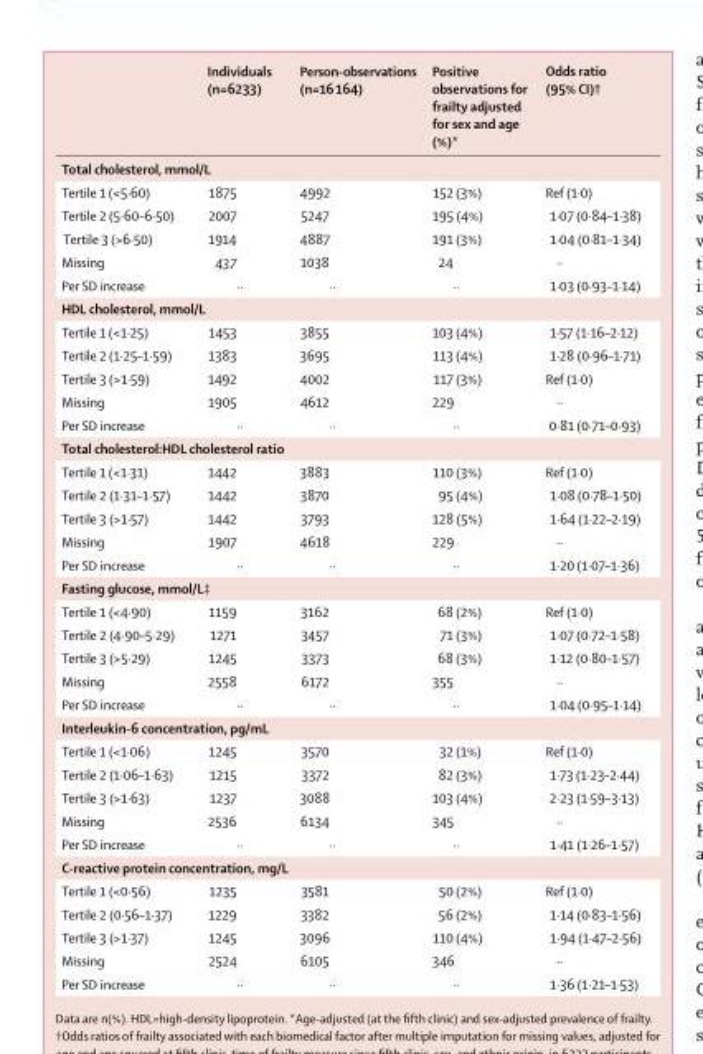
<table><thead><tr><td></td><td>Individuals (n=6233)</td><td>Person-observations (n=16 164)</td><td>Positive observations for frailty adjusted for sex and age (%)*</td><td>Odds ratio (95% CI)†</td></tr></thead><tbody><tr><td colspan="5">Total cholesterol, mmol/L</td></tr><tr><td>Tertile 1 (&lt;5·60)</td><td>1875</td><td>4992</td><td>152 (3%)</td><td>Ref (1·0)</td></tr><tr><td>Tertile 2 (5·60–6·50)</td><td>2007</td><td>5247</td><td>195 (4%)</td><td>1·07 (0·84–1·38)</td></tr><tr><td>Tertile 3 (&gt;6·50)</td><td>1914</td><td>4887</td><td>191 (3%)</td><td>1·04 (0·81–1·34)</td></tr><tr><td>Missing</td><td>437</td><td>1038</td><td>24</td><td>··</td></tr><tr><td>Per SD increase</td><td>··</td><td>··</td><td>··</td><td>1·03 (0·93–1·14)</td></tr><tr><td colspan="5">HDL cholesterol, mmol/L</td></tr><tr><td>Tertile 1 (&lt;1·25)</td><td>1453</td><td>3855</td><td>103 (4%)</td><td>1·57 (1·16–2·12)</td></tr><tr><td>Tertile 2 (1·25–1·59)</td><td>1383</td><td>3695</td><td>113 (4%)</td><td>1·28 (0·96–1·71)</td></tr><tr><td>Tertile 3 (&gt;1·59)</td><td>1492</td><td>4002</td><td>117 (3%)</td><td>Ref (1·0)</td></tr><tr><td>Missing</td><td>1905</td><td>4612</td><td>229</td><td>··</td></tr><tr><td>Per SD increase</td><td>··</td><td>··</td><td>··</td><td>0·81 (0·71–0·93)</td></tr><tr><td colspan="5">Total cholesterol:HDL cholesterol ratio</td></tr><tr><td>Tertile 1 (&lt;1·31)</td><td>1442</td><td>3883</td><td>110 (3%)</td><td>Ref (1·0)</td></tr><tr><td>Tertile 2 (1·31–1·57)</td><td>1442</td><td>3870</td><td>95 (4%)</td><td>1·08 (0·78–1·50)</td></tr><tr><td>Tertile 3 (&gt;1·57)</td><td>1442</td><td>3793</td><td>128 (5%)</td><td>1·64 (1·22–2·19)</td></tr><tr><td>Missing</td><td>1907</td><td>4618</td><td>229</td><td>··</td></tr><tr><td>Per SD increase</td><td>··</td><td>··</td><td>··</td><td>1·20 (1·07–1·36)</td></tr><tr><td colspan="5">Fasting glucose, mmol/L‡</td></tr><tr><td>Tertile 1 (&lt;4·90)</td><td>1159</td><td>3162</td><td>68 (2%)</td><td>Ref (1·0)</td></tr><tr><td>Tertile 2 (4·90–5·29)</td><td>1271</td><td>3457</td><td>71 (3%)</td><td>1·07 (0·72–1·58)</td></tr><tr><td>Tertile 3 (&gt;5·29)</td><td>1245</td><td>3373</td><td>68 (3%)</td><td>1·12 (0·80–1·57)</td></tr><tr><td>Missing</td><td>2558</td><td>6172</td><td>355</td><td>··</td></tr><tr><td>Per SD increase</td><td>··</td><td>··</td><td>··</td><td>1·04 (0·95–1·14)</td></tr><tr><td colspan="5">Interleukin-6 concentration, pg/mL</td></tr><tr><td>Tertile 1 (&lt;1·06)</td><td>1245</td><td>3570</td><td>32 (1%)</td><td>Ref (1·0)</td></tr><tr><td>Tertile 2 (1·06–1·63)</td><td>1215</td><td>3372</td><td>82 (3%)</td><td>1·73 (1·23–2·44)</td></tr><tr><td>Tertile 3 (&gt;1·63)</td><td>1237</td><td>3088</td><td>103 (4%)</td><td>2·23 (1·59–3·13)</td></tr><tr><td>Missing</td><td>2536</td><td>6134</td><td>345</td><td>··</td></tr><tr><td>Per SD increase</td><td>··</td><td>··</td><td>··</td><td>1·41 (1·26–1·57)</td></tr><tr><td colspan="5">C-reactive protein concentration, mg/L</td></tr><tr><td>Tertile 1 (&lt;0·56)</td><td>1235</td><td>3581</td><td>50 (2%)</td><td>Ref (1·0)</td></tr><tr><td>Tertile 2 (0·56–1·37)</td><td>1229</td><td>3382</td><td>56 (2%)</td><td>1·14 (0·83–1·56)</td></tr><tr><td>Tertile 3 (&gt;1·37)</td><td>1245</td><td>3096</td><td>110 (4%)</td><td>1·94 (1·47–2·56)</td></tr><tr><td>Missing</td><td>2524</td><td>6105</td><td>346</td><td>··</td></tr><tr><td>Per SD increase</td><td>··</td><td>··</td><td>··</td><td>1·36 (1·21–1·53)</td></tr></tbody></table>